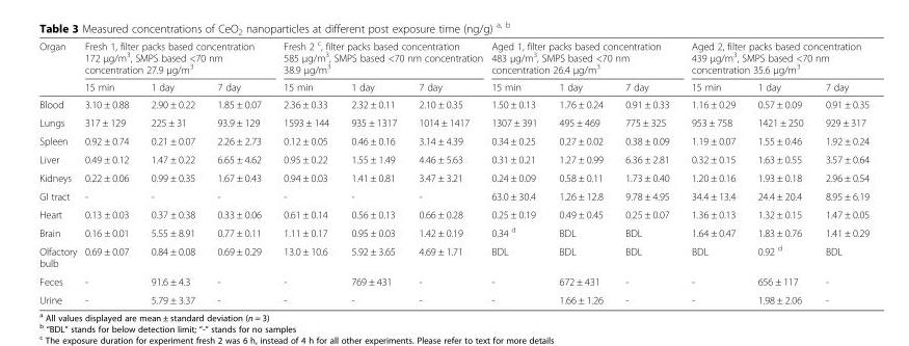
<table><thead><tr><td rowspan="2">Organ</td><td colspan="3">Fresh 1, filter packs based concentration 172 μg/m<sup>3</sup>, SMPS based &lt;70 nm concentration 27.9 μg/m<sup>3</sup></td><td colspan="3">Fresh 2 <sup>c</sup>, filter packs based concentration 585 μg/m<sup>3</sup>, SMPS based &lt;70 nm concentration 38.9 μg/m<sup>3</sup></td><td colspan="3">Aged 1, filter packs based concentration 483 μg/m<sup>3</sup>, SMPS based &lt;70 nm concentration 26.4 μg/m<sup>3</sup></td><td colspan="3">Aged 2, filter packs based concentration 439 μg/m<sup>3</sup>, SMPS based &lt;70 nm concentration 35.6 μg/m<sup>3</sup></td></tr><tr><td>15 min</td><td>1 day</td><td>7 day</td><td>15 min</td><td>1 day</td><td>7 day</td><td>15 min</td><td>1 day</td><td>7 day</td><td>15 min</td><td>1 day</td><td>7 day</td></tr></thead><tbody><tr><td>Blood</td><td>3.10 ± 0.88</td><td>2.90 ± 0.22</td><td>1.85 ± 0.07</td><td>2.36 ± 0.33</td><td>2.32 ± 0.11</td><td>2.10 ± 0.35</td><td>1.50 ± 0.13</td><td>1.76 ± 0.24</td><td>0.91 ± 0.33</td><td>1.16 ± 0.29</td><td>0.57 ± 0.09</td><td>0.91 ± 0.35</td></tr><tr><td>Lungs</td><td>317 ± 129</td><td>225 ± 31</td><td>93.9 ± 129</td><td>1593 ± 144</td><td>935 ± 1317</td><td>1014 ± 1417</td><td>1307 ± 391</td><td>495 ± 469</td><td>775 ± 325</td><td>953 ± 758</td><td>1421 ± 250</td><td>929 ± 317</td></tr><tr><td>Spleen</td><td>0.92 ± 0.74</td><td>0.21 ± 0.07</td><td>2.26 ± 2.73</td><td>0.12 ± 0.05</td><td>0.46 ± 0.16</td><td>3.14 ± 4.39</td><td>0.34 ± 0.25</td><td>0.27 ± 0.02</td><td>0.38 ± 0.09</td><td>1.19 ± 0.07</td><td>1.55 ± 0.46</td><td>1.92 ± 0.24</td></tr><tr><td>Liver</td><td>0.49 ± 0.12</td><td>1.47 ± 0.22</td><td>6.65 ± 4.62</td><td>0.95 ± 0.22</td><td>1.55 ± 1.49</td><td>4.46 ± 5.63</td><td>0.31 ± 0.21</td><td>1.27 ± 0.99</td><td>6.36 ± 2.81</td><td>0.32 ± 0.15</td><td>1.63 ± 0.55</td><td>3.57 ± 0.64</td></tr><tr><td>Kidneys</td><td>0.22 ± 0.06</td><td>0.99 ± 0.35</td><td>1.67 ± 0.43</td><td>0.94 ± 0.03</td><td>1.41 ± 0.81</td><td>3.47 ± 3.21</td><td>0.24 ± 0.09</td><td>0.58 ± 0.11</td><td>1.73 ± 0.40</td><td>1.20 ± 0.16</td><td>1.93 ± 0.18</td><td>2.96 ± 0.54</td></tr><tr><td>GI tract</td><td>-</td><td>-</td><td>-</td><td>-</td><td>-</td><td>-</td><td>63.0 ± 30.4</td><td>1.26 ± 12.8</td><td>9.78 ± 4.95</td><td>34.4 ± 13.4</td><td>24.4 ± 20.4</td><td>8.95 ± 6.19</td></tr><tr><td>Heart</td><td>0.13 ± 0.03</td><td>0.37 ± 0.38</td><td>0.33 ± 0.06</td><td>0.61 ± 0.14</td><td>0.56 ± 0.13</td><td>0.66 ± 0.28</td><td>0.25 ± 0.19</td><td>0.49 ± 0.45</td><td>0.25 ± 0.07</td><td>1.36 ± 0.13</td><td>1.32 ± 0.15</td><td>1.47 ± 0.05</td></tr><tr><td>Brain</td><td>0.16 ± 0.01</td><td>5.55 ± 8.91</td><td>0.77 ± 0.11</td><td>1.11 ± 0.17</td><td>0.95 ± 0.03</td><td>1.42 ± 0.19</td><td>0.34 <sup>d</sup></td><td>BDL</td><td>BDL</td><td>1.64 ± 0.47</td><td>1.83 ± 0.76</td><td>1.41 ± 0.29</td></tr><tr><td>Olfactory bulb</td><td>0.69 ± 0.07</td><td>0.84 ± 0.08</td><td>0.69 ± 0.29</td><td>13.0 ± 10.6</td><td>5.92 ± 3.65</td><td>4.69 ± 1.71</td><td>BDL</td><td>BDL</td><td>BDL</td><td>BDL</td><td>0.92 <sup>d</sup></td><td>BDL</td></tr><tr><td>Feces</td><td>-</td><td>91.6 ± 4.3</td><td>-</td><td>-</td><td>769 ± 431</td><td>-</td><td>-</td><td>672 ± 431</td><td>-</td><td>-</td><td>656 ± 117</td><td>-</td></tr><tr><td>Urine</td><td>-</td><td>5.79 ± 3.37</td><td>-</td><td>-</td><td>-</td><td>-</td><td>-</td><td>1.66 ± 1.26</td><td>-</td><td>-</td><td>1.98 ± 2.06</td><td>-</td></tr></tbody></table>